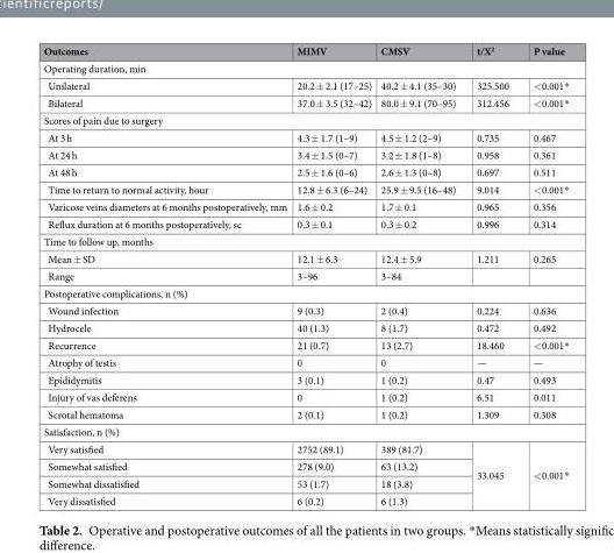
<table><thead><tr><td>Outcomes</td><td>MIMV</td><td>CMSV</td><td>t/X<sup>2</sup></td><td>P value</td></tr></thead><tbody><tr><td colspan="5">Operating duration, min</td></tr><tr><td>Unilateral</td><td>20.2 ± 2.1 (17–25)</td><td>40.2 ± 4.1 (35–30)</td><td>325.500</td><td>&lt;0.001*</td></tr><tr><td>Bilateral</td><td>37.0 ± 3.5 (32–42)</td><td>80.0 ± 9.1 (70–95)</td><td>312.456</td><td>&lt;0.001*</td></tr><tr><td colspan="5">Scores of pain due to surgery</td></tr><tr><td>At 3 h</td><td>4.3 ± 1.7 (1–9)</td><td>4.5 ± 1.2 (2–9)</td><td>0.735</td><td>0.467</td></tr><tr><td>At 24 h</td><td>3.4 ± 1.5 (0–7)</td><td>3.2 ± 1.8 (1–8)</td><td>0.958</td><td>0.361</td></tr><tr><td>At 48 h</td><td>2.5 ± 1.6 (0–6)</td><td>2.6 ± 1.3 (0–8)</td><td>0.697</td><td>0.511</td></tr><tr><td>Time to return to normal activity, hour</td><td>12.8 ± 6.3 (6–24)</td><td>25.9 ± 9.5 (16–48)</td><td>9.014</td><td>&lt;0.001*</td></tr><tr><td>Varicose veins diameters at 6 months postoperatively, mm</td><td>1.6 ± 0.2</td><td>1.7 ± 0.1</td><td>0.965</td><td>0.356</td></tr><tr><td>Reflux duration at 6 months postoperatively, sc</td><td>0.3 ± 0.1</td><td>0.3 ± 0.2</td><td>0.996</td><td>0.314</td></tr><tr><td colspan="5">Time to follow up, months</td></tr><tr><td>Mean ± SD</td><td>12.1 ± 6.3</td><td>12.4 ± 5.9</td><td>1.211</td><td>0.265</td></tr><tr><td>Range</td><td>3–96</td><td>3–84</td><td></td><td></td></tr><tr><td colspan="5">Postoperative complications, n (%)</td></tr><tr><td>Wound infection</td><td>9 (0.3)</td><td>2 (0.4)</td><td>0.224</td><td>0.636</td></tr><tr><td>Hydrocele</td><td>40 (1.3)</td><td>8 (1.7)</td><td>0.472</td><td>0.492</td></tr><tr><td>Recurrence</td><td>21 (0.7)</td><td>13 (2.7)</td><td>18.460</td><td>&lt;0.001*</td></tr><tr><td>Atrophy of testis</td><td>0</td><td>0</td><td>—</td><td>—</td></tr><tr><td>Epididymitis</td><td>3 (0.1)</td><td>1 (0.2)</td><td>0.47</td><td>0.493</td></tr><tr><td>Injury of vas deferens</td><td>0</td><td>1 (0.2)</td><td>6.51</td><td>0.011</td></tr><tr><td>Scrotal hematoma</td><td>2 (0.1)</td><td>1 (0.2)</td><td>1.309</td><td>0.308</td></tr><tr><td colspan="5">Satisfaction, n (%)</td></tr><tr><td>Very satisfied</td><td>2752 (89.1)</td><td>389 (81.7)</td><td rowspan="4">33.045</td><td rowspan="4">&lt;0.001*</td></tr><tr><td>Somewhat satisfied</td><td>278 (9.0)</td><td>63 (13.2)</td></tr><tr><td>Somewhat dissatisfied</td><td>53 (1.7)</td><td>18 (3.8)</td></tr><tr><td>Very dissatisfied</td><td>6 (0.2)</td><td>6 (1.3)</td></tr></tbody></table>